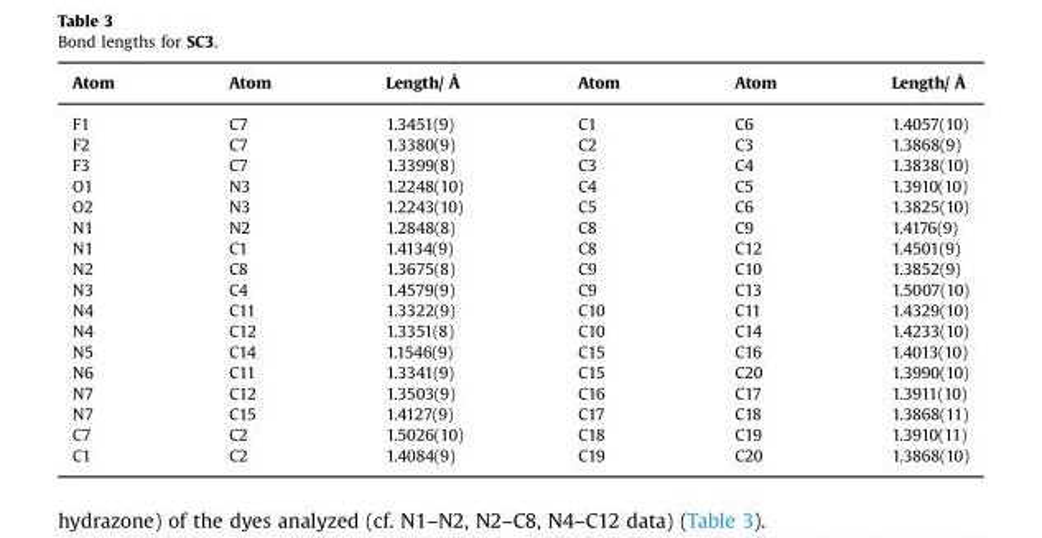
<table><thead><tr><td>Atom</td><td>Atom</td><td>Length/ Å</td><td>Atom</td><td>Atom</td><td>Length/ Å</td></tr></thead><tbody><tr><td>F1</td><td>C7</td><td>1.3451(9)</td><td>C1</td><td>C6</td><td>1.4057(10)</td></tr><tr><td>F2</td><td>C7</td><td>1.3380(9)</td><td>C2</td><td>C3</td><td>1.3868(9)</td></tr><tr><td>F3</td><td>C7</td><td>1.3399(8)</td><td>C3</td><td>C4</td><td>1.3838(10)</td></tr><tr><td>O1</td><td>N3</td><td>1.2248(10)</td><td>C4</td><td>C5</td><td>1.3910(10)</td></tr><tr><td>O2</td><td>N3</td><td>1.2243(10)</td><td>C5</td><td>C6</td><td>1.3825(10)</td></tr><tr><td>N1</td><td>N2</td><td>1.2848(8)</td><td>C8</td><td>C9</td><td>1.4176(9)</td></tr><tr><td>N1</td><td>C1</td><td>1.4134(9)</td><td>C8</td><td>C12</td><td>1.4501(9)</td></tr><tr><td>N2</td><td>C8</td><td>1.3675(8)</td><td>C9</td><td>C10</td><td>1.3852(9)</td></tr><tr><td>N3</td><td>C4</td><td>1.4579(9)</td><td>C9</td><td>C13</td><td>1.5007(10)</td></tr><tr><td>N4</td><td>C11</td><td>1.3322(9)</td><td>C10</td><td>C11</td><td>1.4329(10)</td></tr><tr><td>N4</td><td>C12</td><td>1.3351(8)</td><td>C10</td><td>C14</td><td>1.4233(10)</td></tr><tr><td>N5</td><td>C14</td><td>1.1546(9)</td><td>C15</td><td>C16</td><td>1.4013(10)</td></tr><tr><td>N6</td><td>C11</td><td>1.3341(9)</td><td>C15</td><td>C20</td><td>1.3990(10)</td></tr><tr><td>N7</td><td>C12</td><td>1.3503(9)</td><td>C16</td><td>C17</td><td>1.3911(10)</td></tr><tr><td>N7</td><td>C15</td><td>1.4127(9)</td><td>C17</td><td>C18</td><td>1.3868(11)</td></tr><tr><td>C7</td><td>C2</td><td>1.5026(10)</td><td>C18</td><td>C19</td><td>1.3910(11)</td></tr><tr><td>C1</td><td>C2</td><td>1.4084(9)</td><td>C19</td><td>C20</td><td>1.3868(10)</td></tr></tbody></table>